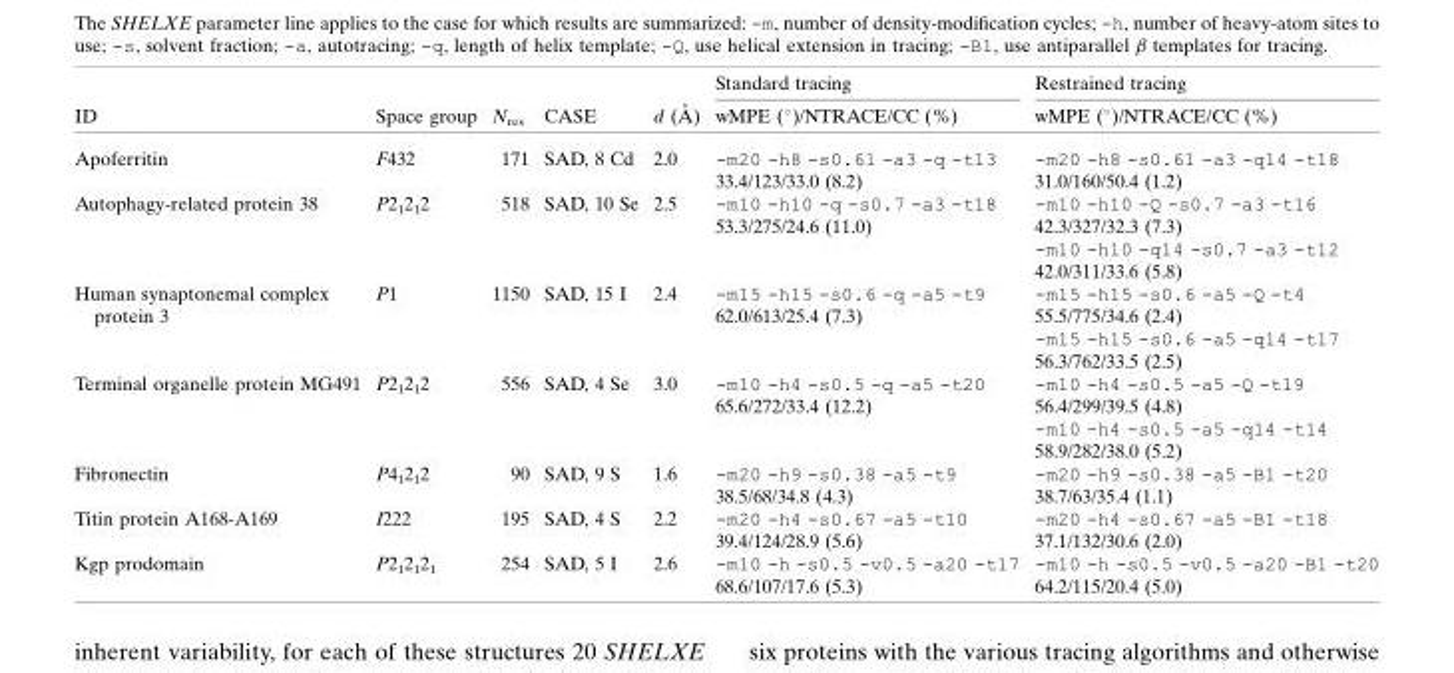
<table><thead><tr><td rowspan="2">ID</td><td rowspan="2">Space group</td><td rowspan="2">N<sub>res</sub></td><td rowspan="2">CASE</td><td rowspan="2">d (A˚ )</td><td rowspan="2">Standard tracing wMPE (°)/NTRACE/CC (%)</td><td rowspan="2">Restrained tracing wMPE (°)/NTRACE/CC (%)</td></tr><tr></tr></thead><tbody><tr><td rowspan="2">Apoferritin</td><td rowspan="2">F432</td><td rowspan="2">171</td><td rowspan="2">SAD, 8 Cd</td><td rowspan="2">2.0</td><td>-m20 -h8 -s0.61 -a3 -q -t13</td><td>-m20 -h8 -s0.61 -a3 -q14 -t18</td></tr><tr><td>33.4/123/33.0 (8.2)</td><td>31.0/160/50.4 (1.2)</td></tr><tr><td rowspan="4">Autophagy-related protein 38</td><td rowspan="4">P2<sub>1</sub>2<sub>1</sub>2</td><td rowspan="4">518</td><td rowspan="4">SAD, 10 Se</td><td rowspan="4">2.5</td><td>-m10 -h10 -q -s0.7 -a3 -t18</td><td>-m10 -h10 -Q -s0.7 -a3 -t16</td></tr><tr><td>53.3/275/24.6 (11.0)</td><td>42.3/327/32.3 (7.3)</td></tr><tr><td></td><td>-m10 -h10 -q14 -s0.7 -a3 -t12</td></tr><tr><td></td><td>42.0/311/33.6 (5.8)</td></tr><tr><td rowspan="4">Human synaptonemal complex protein 3</td><td rowspan="4">P1</td><td rowspan="4">1150</td><td rowspan="4">SAD, 15 I</td><td rowspan="4">2.4</td><td>-m15 -h15 -s0.6 -q -a5 -t9</td><td>-m15 -h15 -s0.6 -a5 -Q -t4</td></tr><tr><td>62.0/613/25.4 (7.3)</td><td>55.5/775/34.6 (2.4)</td></tr><tr><td></td><td>-m15 -h15 -s0.6 -a5 -q14 -t17</td></tr><tr><td></td><td>56.3/762/33.5 (2.5)</td></tr><tr><td rowspan="4">Terminal organelle protein MG491</td><td rowspan="4">P2<sub>1</sub>2<sub>1</sub>2</td><td rowspan="4">556</td><td rowspan="4">SAD, 4 Se</td><td rowspan="4">3.0</td><td>-m10 -h4 -s0.5 -q -a5 -t20</td><td>-m10 -h4 -s0.5 -a5 -Q -t19</td></tr><tr><td>65.6/272/33.4 (12.2)</td><td>56.4/299/39.5 (4.8)</td></tr><tr><td></td><td>-m10 -h4 -s0.5 -a5 -q14 -t14</td></tr><tr><td></td><td>58.9/282/38.0 (5.2)</td></tr><tr><td rowspan="2">Fibronectin</td><td rowspan="2">P4<sub>1</sub>2<sub>1</sub>2</td><td rowspan="2">90</td><td rowspan="2">SAD, 9 S</td><td rowspan="2">1.6</td><td>-m20 -h9 -s0.38 -a5 -t9</td><td>-m20 -h9 -s0.38 -a5 -B1 -t20</td></tr><tr><td>38.5/68/34.8 (4.3)</td><td>38.7/63/35.4 (1.1)</td></tr><tr><td rowspan="2">Titin protein A168-A169</td><td rowspan="2">I222</td><td rowspan="2">195</td><td rowspan="2">SAD, 4 S</td><td rowspan="2">2.2</td><td>-m20 -h4 -s0.67 -a5 -t10</td><td>-m20 -h4 -s0.67 -a5 -B1 -t18</td></tr><tr><td>39.4/124/28.9 (5.6)</td><td>37.1/132/30.6 (2.0)</td></tr><tr><td rowspan="2">Kgp prodomain</td><td rowspan="2">P2<sub>1</sub>2<sub>1</sub>2<sub>1</sub></td><td rowspan="2">254</td><td rowspan="2">SAD, 5 I</td><td rowspan="2">2.6</td><td>-m10 -h -s0.5 -v0.5 -a20 -t17</td><td>-m10 -h -s0.5 -v0.5 -a20 -B1 -t20</td></tr><tr><td>68.6/107/17.6 (5.3)</td><td>64.2/115/20.4 (5.0)</td></tr></tbody></table>